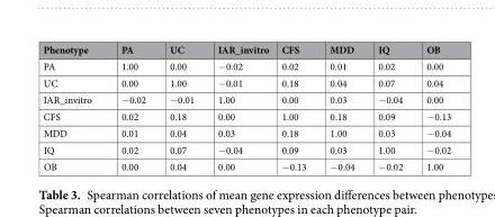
<table><thead><tr><td>Phenotype</td><td>PA</td><td>UC</td><td>IAR_invitro</td><td>CFS</td><td>MDD</td><td>IQ</td><td>OB</td></tr></thead><tbody><tr><td>PA</td><td>1.00</td><td>0.00</td><td>−0.02</td><td>0.02</td><td>0.01</td><td>0.02</td><td>0.00</td></tr><tr><td>UC</td><td>0.00</td><td>1.00</td><td>−0.01</td><td>0.18</td><td>0.04</td><td>0.07</td><td>0.04</td></tr><tr><td>IAR_invitro</td><td>−0.02</td><td>−0.01</td><td>1.00</td><td>0.00</td><td>0.03</td><td>−0.04</td><td>0.00</td></tr><tr><td>CFS</td><td>0.02</td><td>0.18</td><td>0.00</td><td>1.00</td><td>0.18</td><td>0.09</td><td>−0.13</td></tr><tr><td>MDD</td><td>0.01</td><td>0.04</td><td>0.03</td><td>0.18</td><td>1.00</td><td>0.03</td><td>−0.04</td></tr><tr><td>IQ</td><td>0.02</td><td>0.07</td><td>−0.04</td><td>0.09</td><td>0.03</td><td>1.00</td><td>−0.02</td></tr><tr><td>OB</td><td>0.00</td><td>0.04</td><td>0.00</td><td>−0.13</td><td>−0.04</td><td>−0.02</td><td>1.00</td></tr></tbody></table>